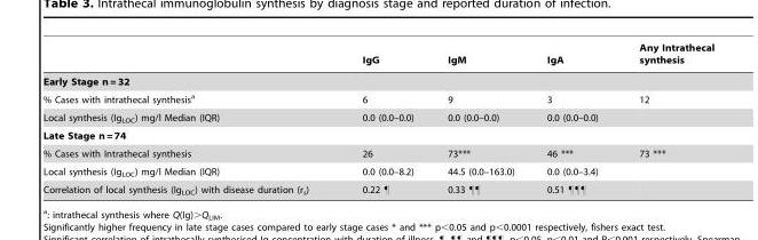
<table><thead><tr><td></td><td>IgG</td><td>IgM</td><td>IgA</td><td>Any Intrathecal synthesis</td></tr></thead><tbody><tr><td colspan="5">Early Stage n = 32</td></tr><tr><td>% Cases with intrathecal synthesis<sup>a</sup></td><td>6</td><td>9</td><td>3</td><td>12</td></tr><tr><td>Local synthesis (Ig<sub>LOC</sub>) mg/l Median (IQR)</td><td>0.0 (0.0–0.0)</td><td>0.0 (0.0–0.0)</td><td>0.0 (0.0–0.0)</td><td></td></tr><tr><td colspan="5">Late Stage n = 74</td></tr><tr><td>% Cases with Intrathecal synthesis</td><td>26</td><td>73***</td><td>46 ***</td><td>73 ***</td></tr><tr><td>Local synthesis (Ig<sub>LOC</sub>) mg/l Median (IQR)</td><td>0.0 (0.0–8.2)</td><td>44.5 (0.0–163.0)</td><td>0.0 (0.0–3.4)</td><td></td></tr><tr><td>Correlation of local synthesis (Ig<sub>LOC</sub>) with disease duration (r<sub>s</sub>)</td><td>0.22 ¶</td><td>0.33 ¶¶</td><td>0.51 ¶¶¶</td><td></td></tr></tbody></table>